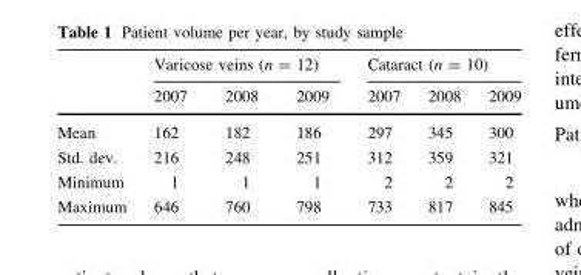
<table><thead><tr><td rowspan="2"></td><td colspan="3">Varicose veins (n = 12)</td><td colspan="3">Cataract (n = 10)</td></tr><tr><td>2007</td><td>2008</td><td>2009</td><td>2007</td><td>2008</td><td>2009</td></tr></thead><tbody><tr><td>Mean</td><td>162</td><td>182</td><td>186</td><td>297</td><td>345</td><td>300</td></tr><tr><td>Std. dev.</td><td>216</td><td>248</td><td>251</td><td>312</td><td>359</td><td>321</td></tr><tr><td>Minimum</td><td>1</td><td>1</td><td>1</td><td>2</td><td>2</td><td>2</td></tr><tr><td>Maximum</td><td>646</td><td>760</td><td>798</td><td>733</td><td>817</td><td>845</td></tr></tbody></table>